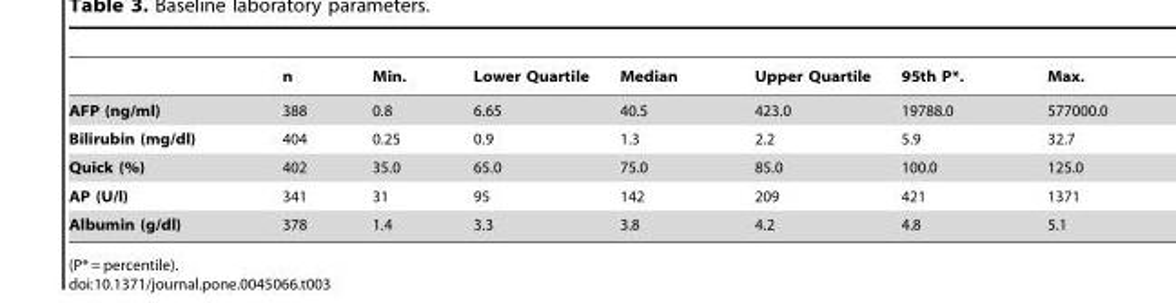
<table><thead><tr><td></td><td>n</td><td>Min.</td><td>Lower Quartile</td><td>Median</td><td>Upper Quartile</td><td>95th P*.</td><td>Max.</td></tr></thead><tbody><tr><td>AFP (ng/ml)</td><td>388</td><td>0.8</td><td>6.65</td><td>40.5</td><td>423.0</td><td>19788.0</td><td>577000.0</td></tr><tr><td>Bilirubin (mg/dl)</td><td>404</td><td>0.25</td><td>0.9</td><td>1.3</td><td>2.2</td><td>5.9</td><td>32.7</td></tr><tr><td>Quick (%)</td><td>402</td><td>35.0</td><td>65.0</td><td>75.0</td><td>85.0</td><td>100.0</td><td>125.0</td></tr><tr><td>AP (U/l)</td><td>341</td><td>31</td><td>95</td><td>142</td><td>209</td><td>421</td><td>1371</td></tr><tr><td>Albumin (g/dl)</td><td>378</td><td>1.4</td><td>3.3</td><td>3.8</td><td>4.2</td><td>4.8</td><td>5.1</td></tr></tbody></table>